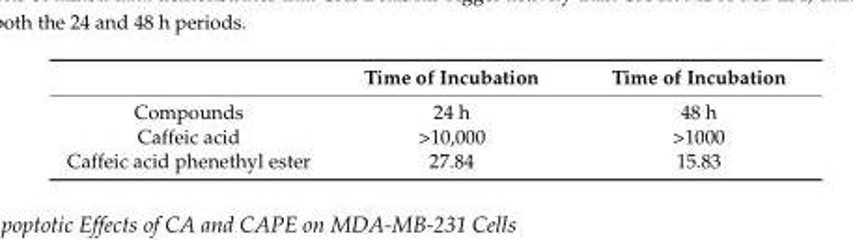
<table><thead><tr><td></td><td>Time of Incubation</td><td>Time of Incubation</td></tr></thead><tbody><tr><td>Compounds</td><td>24 h</td><td>48 h</td></tr><tr><td>Caffeic acid</td><td>&gt;10,000</td><td>&gt;1000</td></tr><tr><td>Caffeic acid phenethyl ester</td><td>27.84</td><td>15.83</td></tr></tbody></table>